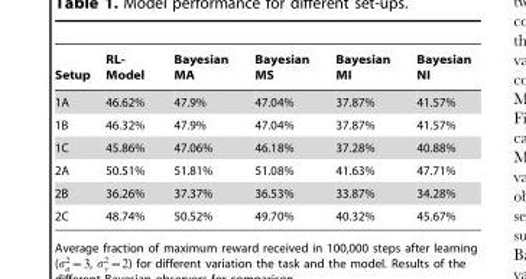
<table><thead><tr><td>Setup</td><td>RL- Model</td><td>Bayesian MA</td><td>Bayesian MS</td><td>Bayesian MI</td><td>Bayesian NI</td></tr></thead><tbody><tr><td>1A</td><td>46.62%</td><td>47.9%</td><td>47.04%</td><td>37.87%</td><td>41.57%</td></tr><tr><td>1B</td><td>46.32%</td><td>47.9%</td><td>47.04%</td><td>37.87%</td><td>41.57%</td></tr><tr><td>1C</td><td>45.86%</td><td>47.06%</td><td>46.18%</td><td>37.28%</td><td>40.88%</td></tr><tr><td>2A</td><td>50.51%</td><td>51.81%</td><td>51.08%</td><td>41.63%</td><td>47.71%</td></tr><tr><td>2B</td><td>36.26%</td><td>37.37%</td><td>36.53%</td><td>33.87%</td><td>34.28%</td></tr><tr><td>2C</td><td>48.74%</td><td>50.52%</td><td>49.70%</td><td>40.32%</td><td>45.67%</td></tr></tbody></table>